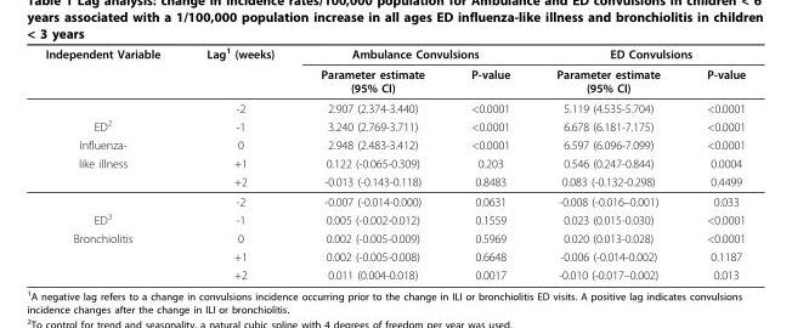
<table><thead><tr><td rowspan="2">Independent Variable</td><td rowspan="2">Lag<sup>1</sup> (weeks)</td><td colspan="2">Ambulance Convulsions</td><td colspan="2">ED Convulsions</td></tr><tr><td>Parameter estimate (95% CI)</td><td>P-value</td><td>Parameter estimate (95% CI)</td><td>P-value</td></tr></thead><tbody><tr><td></td><td>-2</td><td>2.907 (2.374-3.440)</td><td>&lt;0.0001</td><td>5.119 (4.535-5.704)</td><td>&lt;0.0001</td></tr><tr><td>ED<sup>2</sup></td><td>-1</td><td>3.240 (2.769-3.711)</td><td>&lt;0.0001</td><td>6.678 (6.181-7.175)</td><td>&lt;0.0001</td></tr><tr><td>Influenza-</td><td>0</td><td>2.948 (2.483-3.412)</td><td>&lt;0.0001</td><td>6.597 (6.096-7.099)</td><td>&lt;0.0001</td></tr><tr><td rowspan="3">like illness</td><td>+1</td><td>0.122 (-0.065-0.309)</td><td>0.203</td><td>0.546 (0.247-0.844)</td><td>0.0004</td></tr><tr><td>+2</td><td>-0.013 (-0.143-0.118)</td><td>0.8483</td><td>0.083 (-0.132-0.298)</td><td>0.4499</td></tr><tr><td>-2</td><td>-0.007 (-0.014-0.000)</td><td>0.0631</td><td>-0.008 (-0.016–0.001)</td><td>0.033</td></tr><tr><td>ED<sup>3</sup></td><td>-1</td><td>0.005 (-0.002-0.012)</td><td>0.1559</td><td>0.023 (0.015-0.030)</td><td>&lt;0.0001</td></tr><tr><td rowspan="3">Bronchiolitis</td><td>0</td><td>0.002 (-0.005-0.009)</td><td>0.5969</td><td>0.020 (0.013-0.028)</td><td>&lt;0.0001</td></tr><tr><td>+1</td><td>0.002 (-0.005-0.008)</td><td>0.6648</td><td>-0.006 (-0.014-0.002)</td><td>0.1187</td></tr><tr><td>+2</td><td>0.011 (0.004-0.018)</td><td>0.0017</td><td>-0.010 (-0.017–0.002)</td><td>0.013</td></tr></tbody></table>